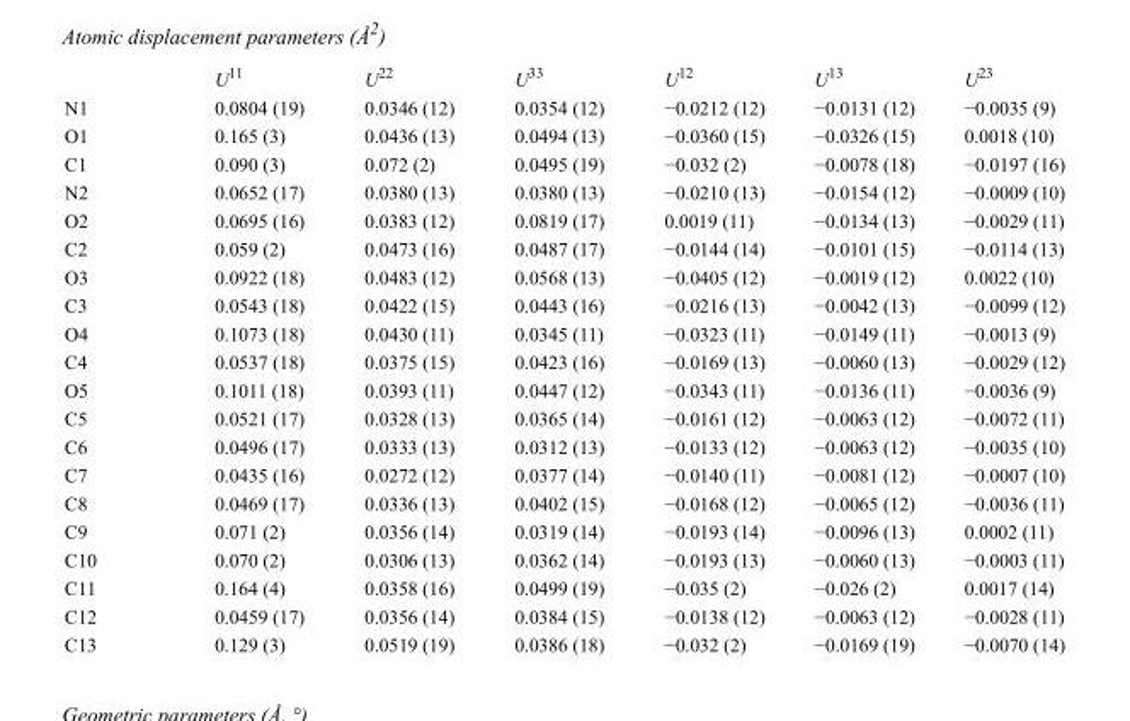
<table><thead><tr><td></td><td>U<sup>11</sup></td><td>U<sup>22</sup></td><td>U<sup>33</sup></td><td>U<sup>12</sup></td><td>U<sup>13</sup></td><td>U<sup>23</sup></td></tr></thead><tbody><tr><td>N1</td><td>0.0804 (19)</td><td>0.0346 (12)</td><td>0.0354 (12)</td><td>−0.0212 (12)</td><td>−0.0131 (12)</td><td>−0.0035 (9)</td></tr><tr><td>O1</td><td>0.165 (3)</td><td>0.0436 (13)</td><td>0.0494 (13)</td><td>−0.0360 (15)</td><td>−0.0326 (15)</td><td>0.0018 (10)</td></tr><tr><td>C1</td><td>0.090 (3)</td><td>0.072 (2)</td><td>0.0495 (19)</td><td>−0.032 (2)</td><td>−0.0078 (18)</td><td>−0.0197 (16)</td></tr><tr><td>N2</td><td>0.0652 (17)</td><td>0.0380 (13)</td><td>0.0380 (13)</td><td>−0.0210 (13)</td><td>−0.0154 (12)</td><td>−0.0009 (10)</td></tr><tr><td>O2</td><td>0.0695 (16)</td><td>0.0383 (12)</td><td>0.0819 (17)</td><td>0.0019 (11)</td><td>−0.0134 (13)</td><td>−0.0029 (11)</td></tr><tr><td>C2</td><td>0.059 (2)</td><td>0.0473 (16)</td><td>0.0487 (17)</td><td>−0.0144 (14)</td><td>−0.0101 (15)</td><td>−0.0114 (13)</td></tr><tr><td>O3</td><td>0.0922 (18)</td><td>0.0483 (12)</td><td>0.0568 (13)</td><td>−0.0405 (12)</td><td>−0.0019 (12)</td><td>0.0022 (10)</td></tr><tr><td>C3</td><td>0.0543 (18)</td><td>0.0422 (15)</td><td>0.0443 (16)</td><td>−0.0216 (13)</td><td>−0.0042 (13)</td><td>−0.0099 (12)</td></tr><tr><td>O4</td><td>0.1073 (18)</td><td>0.0430 (11)</td><td>0.0345 (11)</td><td>−0.0323 (11)</td><td>−0.0149 (11)</td><td>−0.0013 (9)</td></tr><tr><td>C4</td><td>0.0537 (18)</td><td>0.0375 (15)</td><td>0.0423 (16)</td><td>−0.0169 (13)</td><td>−0.0060 (13)</td><td>−0.0029 (12)</td></tr><tr><td>O5</td><td>0.1011 (18)</td><td>0.0393 (11)</td><td>0.0447 (12)</td><td>−0.0343 (11)</td><td>−0.0136 (11)</td><td>−0.0036 (9)</td></tr><tr><td>C5</td><td>0.0521 (17)</td><td>0.0328 (13)</td><td>0.0365 (14)</td><td>−0.0161 (12)</td><td>−0.0063 (12)</td><td>−0.0072 (11)</td></tr><tr><td>C6</td><td>0.0496 (17)</td><td>0.0333 (13)</td><td>0.0312 (13)</td><td>−0.0133 (12)</td><td>−0.0063 (12)</td><td>−0.0035 (10)</td></tr><tr><td>C7</td><td>0.0435 (16)</td><td>0.0272 (12)</td><td>0.0377 (14)</td><td>−0.0140 (11)</td><td>−0.0081 (12)</td><td>−0.0007 (10)</td></tr><tr><td>C8</td><td>0.0469 (17)</td><td>0.0336 (13)</td><td>0.0402 (15)</td><td>−0.0168 (12)</td><td>−0.0065 (12)</td><td>−0.0036 (11)</td></tr><tr><td>C9</td><td>0.071 (2)</td><td>0.0356 (14)</td><td>0.0319 (14)</td><td>−0.0193 (14)</td><td>−0.0096 (13)</td><td>0.0002 (11)</td></tr><tr><td>C10</td><td>0.070 (2)</td><td>0.0306 (13)</td><td>0.0362 (14)</td><td>−0.0193 (13)</td><td>−0.0060 (13)</td><td>−0.0003 (11)</td></tr><tr><td>C11</td><td>0.164 (4)</td><td>0.0358 (16)</td><td>0.0499 (19)</td><td>−0.035 (2)</td><td>−0.026 (2)</td><td>0.0017 (14)</td></tr><tr><td>C12</td><td>0.0459 (17)</td><td>0.0356 (14)</td><td>0.0384 (15)</td><td>−0.0138 (12)</td><td>−0.0063 (12)</td><td>−0.0028 (11)</td></tr><tr><td>C13</td><td>0.129 (3)</td><td>0.0519 (19)</td><td>0.0386 (18)</td><td>−0.032 (2)</td><td>−0.0169 (19)</td><td>−0.0070 (14)</td></tr></tbody></table>